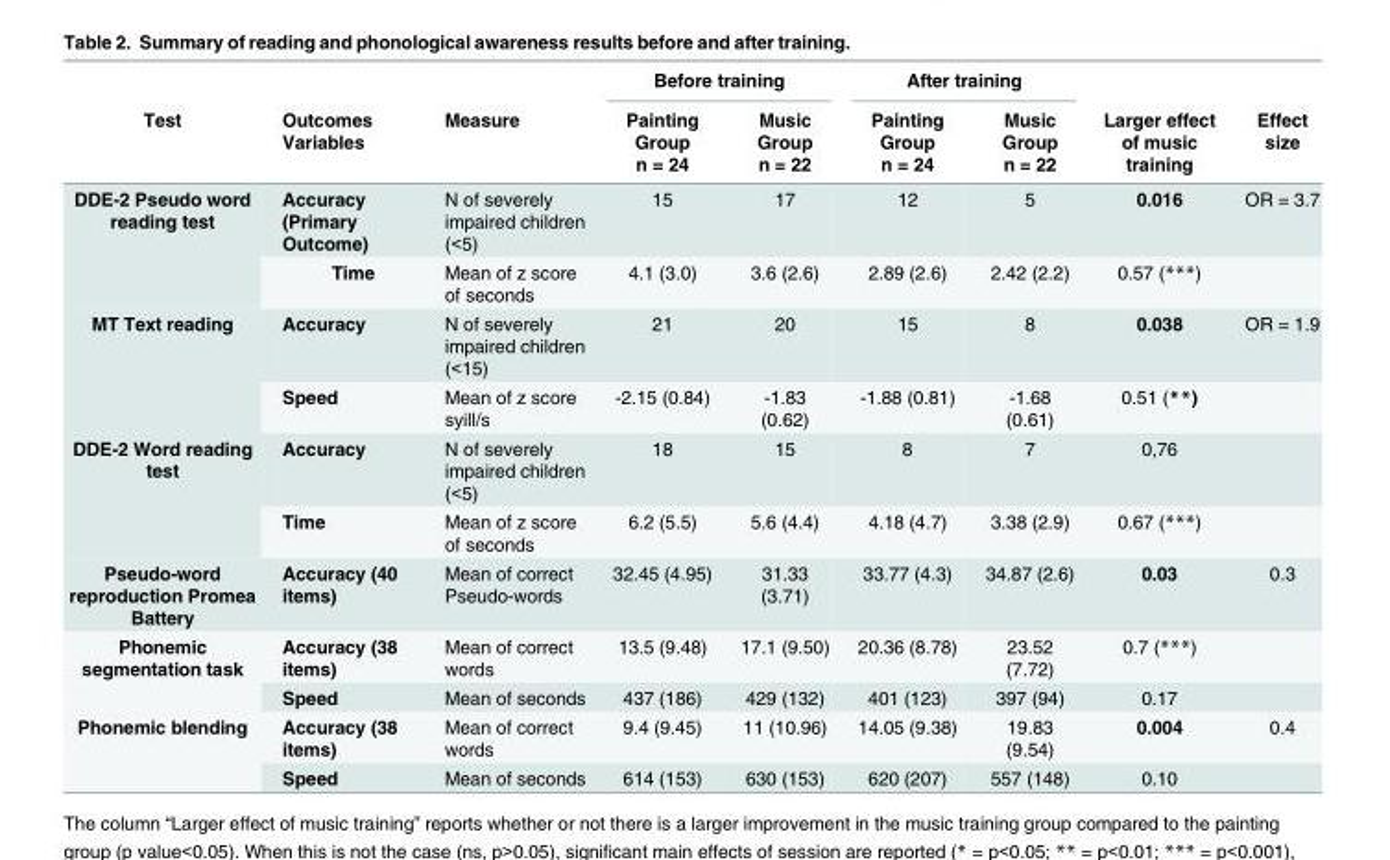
<table><thead><tr><td rowspan="2">Test</td><td rowspan="2">Outcomes Variables</td><td rowspan="2">Measure</td><td colspan="2">Before training</td><td colspan="2">After training</td><td rowspan="2">Larger effect of music training</td><td rowspan="2">Effect size</td></tr><tr><td>Painting Group n = 24</td><td>Music Group n = 22</td><td>Painting Group n = 24</td><td>Music Group n = 22</td></tr></thead><tbody><tr><td rowspan="2">DDE-2 Pseudo word reading test</td><td>Accuracy (Primary Outcome)</td><td>N of severely impaired children (&lt;5)</td><td>15</td><td>17</td><td>12</td><td>5</td><td>0.016</td><td>OR = 3.7</td></tr><tr><td>Time</td><td>Mean of z score of seconds</td><td>4.1 (3.0)</td><td>3.6 (2.6)</td><td>2.89 (2.6)</td><td>2.42 (2.2)</td><td>0.57 (***)</td><td></td></tr><tr><td rowspan="2">MT Text reading</td><td>Accuracy</td><td>N of severely impaired children (&lt;15)</td><td>21</td><td>20</td><td>15</td><td>8</td><td>0.038</td><td>OR = 1.9</td></tr><tr><td>Speed</td><td>Mean of z score syill/s</td><td>-2.15 (0.84)</td><td>-1.83 (0.62)</td><td>-1.88 (0.81)</td><td>-1.68 (0.61)</td><td>0.51 (**)</td><td></td></tr><tr><td rowspan="2">DDE-2 Word reading test</td><td>Accuracy</td><td>N of severely impaired children (&lt;5)</td><td>18</td><td>15</td><td>8</td><td>7</td><td>0,76</td><td></td></tr><tr><td>Time</td><td>Mean of z score of seconds</td><td>6.2 (5.5)</td><td>5.6 (4.4)</td><td>4.18 (4.7)</td><td>3.38 (2.9)</td><td>0.67 (***)</td><td></td></tr><tr><td>Pseudo-word reproduction Promea Battery</td><td>Accuracy (40 items)</td><td>Mean of correct Pseudo-words</td><td>32.45 (4.95)</td><td>31.33 (3.71)</td><td>33.77 (4.3)</td><td>34.87 (2.6)</td><td>0.03</td><td>0.3</td></tr><tr><td rowspan="2">Phonemic segmentation task</td><td>Accuracy (38 items)</td><td>Mean of correct words</td><td>13.5 (9.48)</td><td>17.1 (9.50)</td><td>20.36 (8.78)</td><td>23.52 (7.72)</td><td>0.7 (***)</td><td></td></tr><tr><td>Speed</td><td>Mean of seconds</td><td>437 (186)</td><td>429 (132)</td><td>401 (123)</td><td>397 (94)</td><td>0.17</td><td></td></tr><tr><td rowspan="2">Phonemic blending</td><td>Accuracy (38 items)</td><td>Mean of correct words</td><td>9.4 (9.45)</td><td>11 (10.96)</td><td>14.05 (9.38)</td><td>19.83 (9.54)</td><td>0.004</td><td>0.4</td></tr><tr><td>Speed</td><td>Mean of seconds</td><td>614 (153)</td><td>630 (153)</td><td>620 (207)</td><td>557 (148)</td><td>0.10</td><td></td></tr></tbody></table>